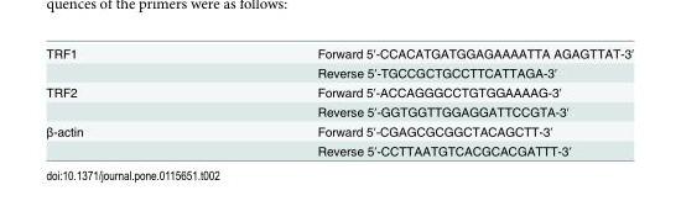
<table><tbody><tr><td rowspan="2">TRF1</td><td>Forward 5ʹ-CCACATGATGGAGAAAATTA AGAGTTAT-3ʹ</td></tr><tr><td>Reverse 5ʹ-TGCCGCTGCCTTCATTAGA-3ʹ</td></tr><tr><td rowspan="2">TRF2</td><td>Forward 5ʹ-ACCAGGGCCTGTGGAAAAG-3ʹ</td></tr><tr><td>Reverse 5ʹ-GGTGGTTGGAGGATTCCGTA-3ʹ</td></tr><tr><td rowspan="2">β-actin</td><td>Forward 5ʹ-CGAGCGCGGCTACAGCTT-3ʹ</td></tr><tr><td>Reverse 5ʹ-CCTTAATGTCACGCACGATTT-3ʹ</td></tr></tbody></table>